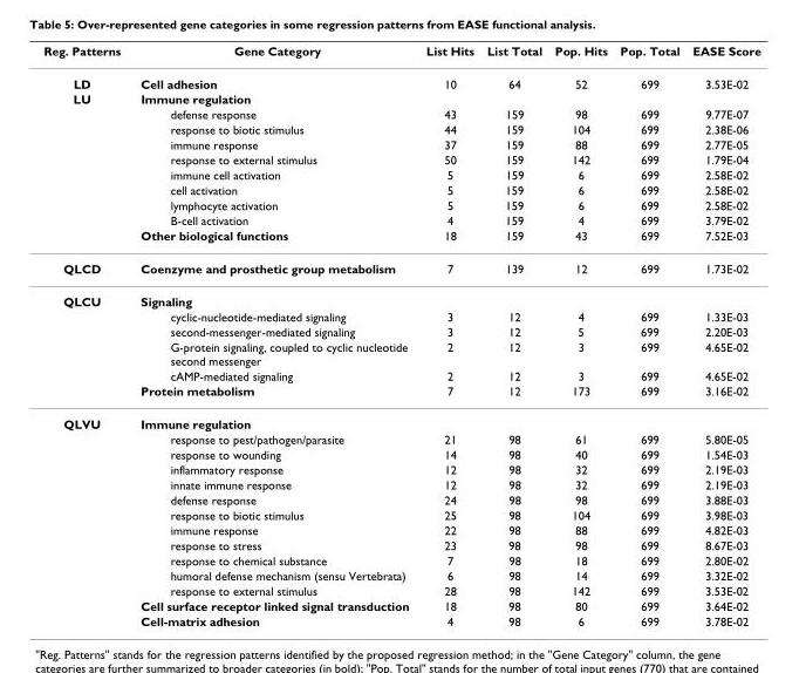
<table><thead><tr><td>Reg. Patterns</td><td>Gene Category</td><td>List Hits</td><td>List Total</td><td>Pop. Hits</td><td>Pop. Total</td><td>EASE Score</td></tr></thead><tbody><tr><td>LD</td><td>Cell adhesion</td><td>10</td><td>64</td><td>52</td><td>699</td><td>3.53E-02</td></tr><tr><td rowspan="10">LU</td><td>Immune regulation</td><td></td><td></td><td></td><td></td><td></td></tr><tr><td>defense response</td><td>43</td><td>159</td><td>98</td><td>699</td><td>9.77E-07</td></tr><tr><td>response to biotic stimulus</td><td>44</td><td>159</td><td>104</td><td>699</td><td>2.38E-06</td></tr><tr><td>immune response</td><td>37</td><td>159</td><td>88</td><td>699</td><td>2.77E-05</td></tr><tr><td>response to external stimulus</td><td>50</td><td>159</td><td>142</td><td>699</td><td>1.79E-04</td></tr><tr><td>immune cell activation</td><td>5</td><td>159</td><td>6</td><td>699</td><td>2.58E-02</td></tr><tr><td>cell activation</td><td>5</td><td>159</td><td>6</td><td>699</td><td>2.58E-02</td></tr><tr><td>lymphocyte activation</td><td>5</td><td>159</td><td>6</td><td>699</td><td>2.58E-02</td></tr><tr><td>B-cell activation</td><td>4</td><td>159</td><td>4</td><td>699</td><td>3.79E-02</td></tr><tr><td>Other biological functions</td><td>18</td><td>159</td><td>43</td><td>699</td><td>7.52E-03</td></tr><tr><td>QLCD</td><td>Coenzyme and prosthetic group metabolism</td><td>7</td><td>139</td><td>12</td><td>699</td><td>1.73E-02</td></tr><tr><td rowspan="6">QLCU</td><td>Signaling</td><td></td><td></td><td></td><td></td><td></td></tr><tr><td>cyclic-nucleotide-mediated signaling</td><td>3</td><td>12</td><td>4</td><td>699</td><td>1.33E-03</td></tr><tr><td>second-messenger-mediated signaling</td><td>3</td><td>12</td><td>5</td><td>699</td><td>2.20E-03</td></tr><tr><td>G-protein signaling, coupled to cyclic nucleotide second messenger</td><td>2</td><td>12</td><td>3</td><td>699</td><td>4.65E-02</td></tr><tr><td>cAMP-mediated signaling</td><td>2</td><td>12</td><td>3</td><td>699</td><td>4.65E-02</td></tr><tr><td>Protein metabolism</td><td>7</td><td>12</td><td>173</td><td>699</td><td>3.16E-02</td></tr><tr><td rowspan="14">QLVU</td><td>Immune regulation</td><td></td><td></td><td></td><td></td><td></td></tr><tr><td>response to pest/pathogen/parasite</td><td>21</td><td>98</td><td>61</td><td>699</td><td>5.80E-05</td></tr><tr><td>response to wounding</td><td>14</td><td>98</td><td>40</td><td>699</td><td>1.54E-03</td></tr><tr><td>inflammatory response</td><td>12</td><td>98</td><td>32</td><td>699</td><td>2.19E-03</td></tr><tr><td>innate immune response</td><td>12</td><td>98</td><td>32</td><td>699</td><td>2.19E-03</td></tr><tr><td>defense response</td><td>24</td><td>98</td><td>98</td><td>699</td><td>3.88E-03</td></tr><tr><td>response to biotic stimulus</td><td>25</td><td>98</td><td>104</td><td>699</td><td>3.98E-03</td></tr><tr><td>immune response</td><td>22</td><td>98</td><td>88</td><td>699</td><td>4.82E-03</td></tr><tr><td>response to stress</td><td>23</td><td>98</td><td>98</td><td>699</td><td>8.67E-03</td></tr><tr><td>response to chemical substance</td><td>7</td><td>98</td><td>18</td><td>699</td><td>2.80E-02</td></tr><tr><td>humoral defense mechanism (sensu Vertebrata)</td><td>6</td><td>98</td><td>14</td><td>699</td><td>3.32E-02</td></tr><tr><td>response to external stimulus</td><td>28</td><td>98</td><td>142</td><td>699</td><td>3.53E-02</td></tr><tr><td>Cell surface receptor linked signal transduction</td><td>18</td><td>98</td><td>80</td><td>699</td><td>3.64E-02</td></tr><tr><td>Cell-matrix adhesion</td><td>4</td><td>98</td><td>6</td><td>699</td><td>3.78E-02</td></tr></tbody></table>